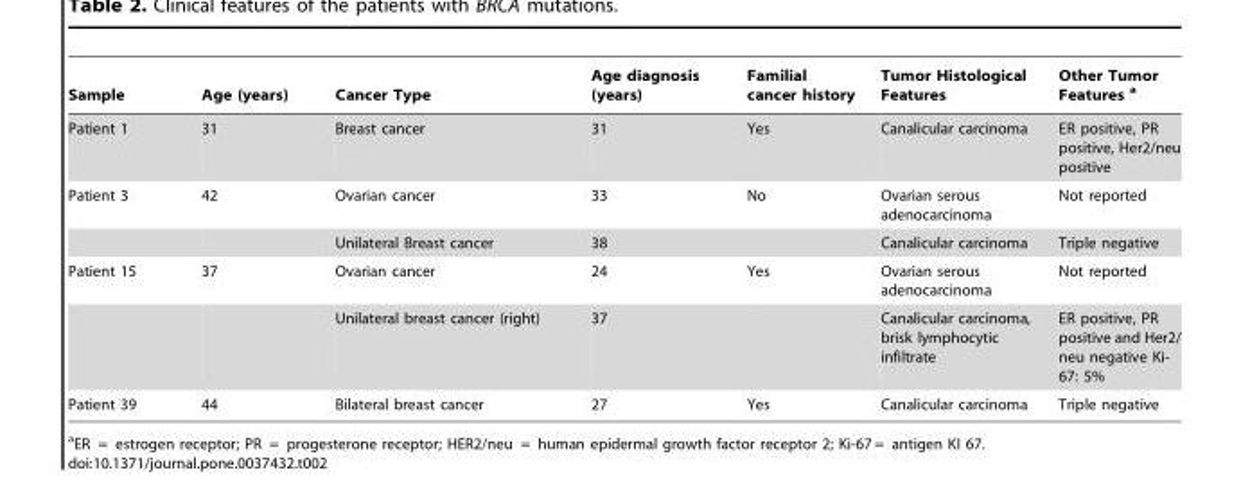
<table><thead><tr><td>Sample</td><td>Age (years)</td><td>Cancer Type</td><td>Age diagnosis (years)</td><td>Familial cancer history</td><td>Tumor Histological Features</td><td>Other Tumor Features a</td></tr></thead><tbody><tr><td>Patient 1</td><td>31</td><td>Breast cancer</td><td>31</td><td>Yes</td><td>Canalicular carcinoma</td><td>ER positive, PR positive, Her2/neu positive</td></tr><tr><td rowspan="2">Patient 3</td><td>42</td><td>Ovarian cancer</td><td>33</td><td>No</td><td>Ovarian serous adenocarcinoma</td><td>Not reported</td></tr><tr><td></td><td>Unilateral Breast cancer</td><td>38</td><td></td><td>Canalicular carcinoma</td><td>Triple negative</td></tr><tr><td rowspan="2">Patient 15</td><td>37</td><td>Ovarian cancer</td><td>24</td><td>Yes</td><td>Ovarian serous adenocarcinoma</td><td>Not reported</td></tr><tr><td></td><td>Unilateral breast cancer (right)</td><td>37</td><td></td><td>Canalicular carcinoma, brisk lymphocytic infiltrate</td><td>ER positive, PR positive and Her2/ neu negative Ki- 67: 5%</td></tr><tr><td>Patient 39</td><td>44</td><td>Bilateral breast cancer</td><td>27</td><td>Yes</td><td>Canalicular carcinoma</td><td>Triple negative</td></tr></tbody></table>